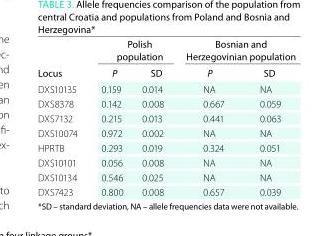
<table><thead><tr><td rowspan="2">locus</td><td colspan="2">Polish population</td><td colspan="2">Bosnian and herzegovinian population</td></tr><tr><td>P</td><td>SD</td><td>P</td><td>SD</td></tr></thead><tbody><tr><td>DXS10135</td><td>0.159</td><td>0.014</td><td>NA</td><td>NA</td></tr><tr><td>DXS8378</td><td>0.142</td><td>0.008</td><td>0.667</td><td>0.059</td></tr><tr><td>DXS7132</td><td>0.215</td><td>0.013</td><td>0.441</td><td>0.063</td></tr><tr><td>DXS10074</td><td>0.972</td><td>0.002</td><td>NA</td><td>NA</td></tr><tr><td>HPRTB</td><td>0.293</td><td>0.019</td><td>0.324</td><td>0.051</td></tr><tr><td>DXS10101</td><td>0.056</td><td>0.008</td><td>NA</td><td>NA</td></tr><tr><td>DXS10134</td><td>0.546</td><td>0.025</td><td>NA</td><td>NA</td></tr><tr><td>DXS7423</td><td>0.800</td><td>0.008</td><td>0.657</td><td>0.039</td></tr></tbody></table>